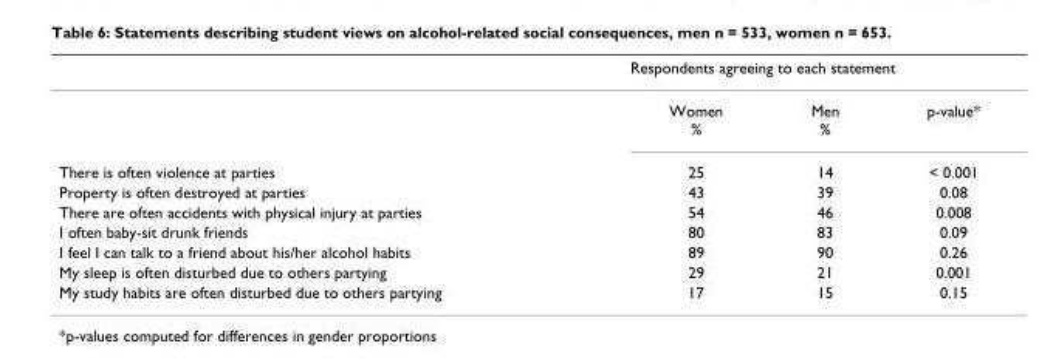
<table><thead><tr><td rowspan="2"></td><td colspan="3">Respondents agreeing to each statement</td></tr><tr><td>Women %</td><td>Men %</td><td>p-value*</td></tr></thead><tbody><tr><td>There is often violence at parties</td><td>25</td><td>14</td><td>&lt; 0.001</td></tr><tr><td>Property is often destroyed at parties</td><td>43</td><td>39</td><td>0.08</td></tr><tr><td>There are often accidents with physical injury at parties</td><td>54</td><td>46</td><td>0.008</td></tr><tr><td>I often baby-sit drunk friends</td><td>80</td><td>83</td><td>0.09</td></tr><tr><td>I feel I can talk to a friend about his/her alcohol habits</td><td>89</td><td>90</td><td>0.26</td></tr><tr><td>My sleep is often disturbed due to others partying</td><td>29</td><td>21</td><td>0.001</td></tr><tr><td>My study habits are often disturbed due to others partying</td><td>17</td><td>15</td><td>0.15</td></tr></tbody></table>